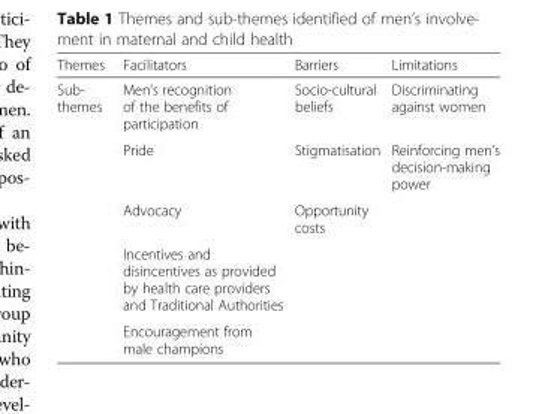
<table><thead><tr><td>Themes</td><td>Facilitators</td><td>Barriers</td><td>Limitations</td></tr></thead><tbody><tr><td rowspan="5">Sub- themes</td><td>Men’s recognition of the benefits of participation</td><td>Socio-cultural beliefs</td><td>Discriminating against women</td></tr><tr><td>Pride</td><td>Stigmatisation</td><td>Reinforcing men’s decision-making power</td></tr><tr><td>Advocacy</td><td>Opportunity costs</td><td></td></tr><tr><td>Incentives and disincentives as provided by health care providers and Traditional Authorities</td><td></td><td></td></tr><tr><td>Encouragement from male champions</td><td></td><td></td></tr></tbody></table>